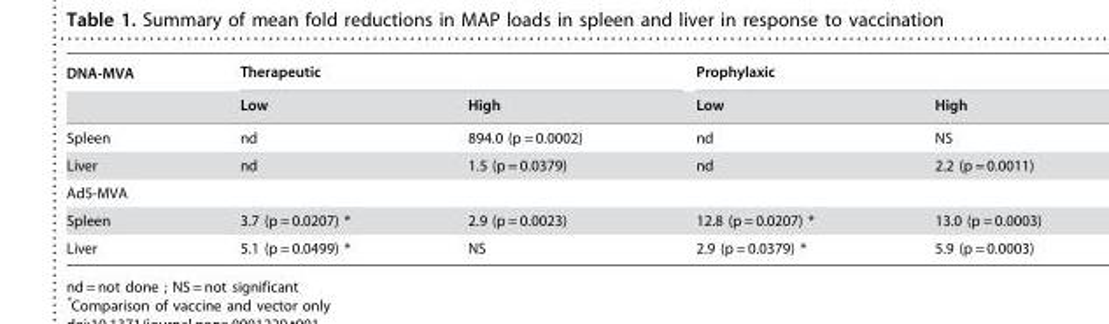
<table><thead><tr><td rowspan="2">DNA-MVA</td><td colspan="2">Therapeutic</td><td colspan="2">Prophylaxic</td></tr><tr><td>Low</td><td>High</td><td>Low</td><td>High</td></tr></thead><tbody><tr><td>Spleen</td><td>nd</td><td>894.0 (p = 0.0002)</td><td>nd</td><td>NS</td></tr><tr><td>Liver</td><td>nd</td><td>1.5 (p = 0.0379)</td><td>nd</td><td>2.2 (p = 0.0011)</td></tr><tr><td colspan="5">Ad5-MVA</td></tr><tr><td>Spleen</td><td>3.7 (p = 0.0207) *</td><td>2.9 (p = 0.0023)</td><td>12.8 (p = 0.0207) *</td><td>13.0 (p = 0.0003)</td></tr><tr><td>Liver</td><td>5.1 (p = 0.0499) *</td><td>NS</td><td>2.9 (p = 0.0379) *</td><td>5.9 (p = 0.0003)</td></tr></tbody></table>